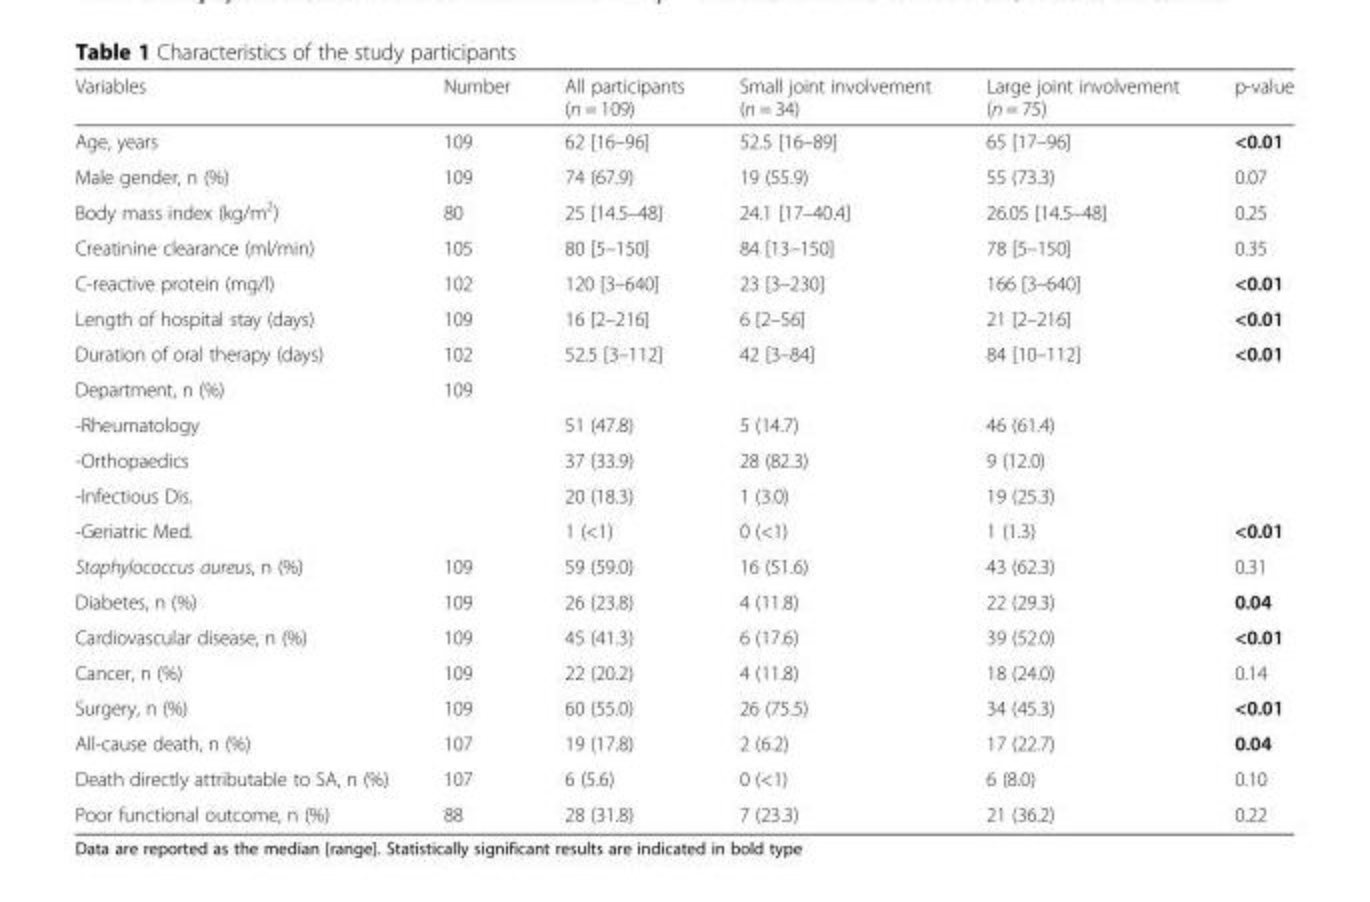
<table><thead><tr><td>Variables</td><td>Number</td><td>All participants (n = 109)</td><td>Small joint involvement (n = 34)</td><td>Large joint involvement (n = 75)</td><td>p-value</td></tr></thead><tbody><tr><td>Age, years</td><td>109</td><td>62 [16–96]</td><td>52.5 [16–89]</td><td>65 [17–96]</td><td>&lt;0.01</td></tr><tr><td>Male gender, n (%)</td><td>109</td><td>74 (67.9)</td><td>19 (55.9)</td><td>55 (73.3)</td><td>0.07</td></tr><tr><td>Body mass index (kg/m<sup>2</sup>)</td><td>80</td><td>25 [14.5–48]</td><td>24.1 [17–40.4]</td><td>26.05 [14.5–48]</td><td>0.25</td></tr><tr><td>Creatinine clearance (ml/min)</td><td>105</td><td>80 [5–150]</td><td>84 [13–150]</td><td>78 [5–150]</td><td>0.35</td></tr><tr><td>C-reactive protein (mg/l)</td><td>102</td><td>120 [3–640]</td><td>23 [3–230]</td><td>166 [3–640]</td><td>&lt;0.01</td></tr><tr><td>Length of hospital stay (days)</td><td>109</td><td>16 [2–216]</td><td>6 [2–56]</td><td>21 [2–216]</td><td>&lt;0.01</td></tr><tr><td>Duration of oral therapy (days)</td><td>102</td><td>52.5 [3–112]</td><td>42 [3–84]</td><td>84 [10–112]</td><td>&lt;0.01</td></tr><tr><td>Department, n (%)</td><td>109</td><td></td><td></td><td></td><td></td></tr><tr><td>-Rheumatology</td><td></td><td>51 (47.8)</td><td>5 (14.7)</td><td>46 (61.4)</td><td></td></tr><tr><td>-Orthopaedics</td><td></td><td>37 (33.9)</td><td>28 (82.3)</td><td>9 (12.0)</td><td></td></tr><tr><td>-Infectious Dis.</td><td></td><td>20 (18.3)</td><td>1 (3.0)</td><td>19 (25.3)</td><td></td></tr><tr><td>-Geriatric Med.</td><td></td><td>1 (&lt;1)</td><td>0 (&lt;1)</td><td>1 (1.3)</td><td>&lt;0.01</td></tr><tr><td>Staphylococcus aureus, n (%)</td><td>109</td><td>59 (59.0)</td><td>16 (51.6)</td><td>43 (62.3)</td><td>0.31</td></tr><tr><td>Diabetes, n (%)</td><td>109</td><td>26 (23.8)</td><td>4 (11.8)</td><td>22 (29.3)</td><td>0.04</td></tr><tr><td>Cardiovascular disease, n (%)</td><td>109</td><td>45 (41.3)</td><td>6 (17.6)</td><td>39 (52.0)</td><td>&lt;0.01</td></tr><tr><td>Cancer, n (%)</td><td>109</td><td>22 (20.2)</td><td>4 (11.8)</td><td>18 (24.0)</td><td>0.14</td></tr><tr><td>Surgery, n (%)</td><td>109</td><td>60 (55.0)</td><td>26 (75.5)</td><td>34 (45.3)</td><td>&lt;0.01</td></tr><tr><td>All-cause death, n (%)</td><td>107</td><td>19 (17.8)</td><td>2 (6.2)</td><td>17 (22.7)</td><td>0.04</td></tr><tr><td>Death directly attributable to SA, n (%)</td><td>107</td><td>6 (5.6)</td><td>0 (&lt;1)</td><td>6 (8.0)</td><td>0.10</td></tr><tr><td>Poor functional outcome, n (%)</td><td>88</td><td>28 (31.8)</td><td>7 (23.3)</td><td>21 (36.2)</td><td>0.22</td></tr></tbody></table>